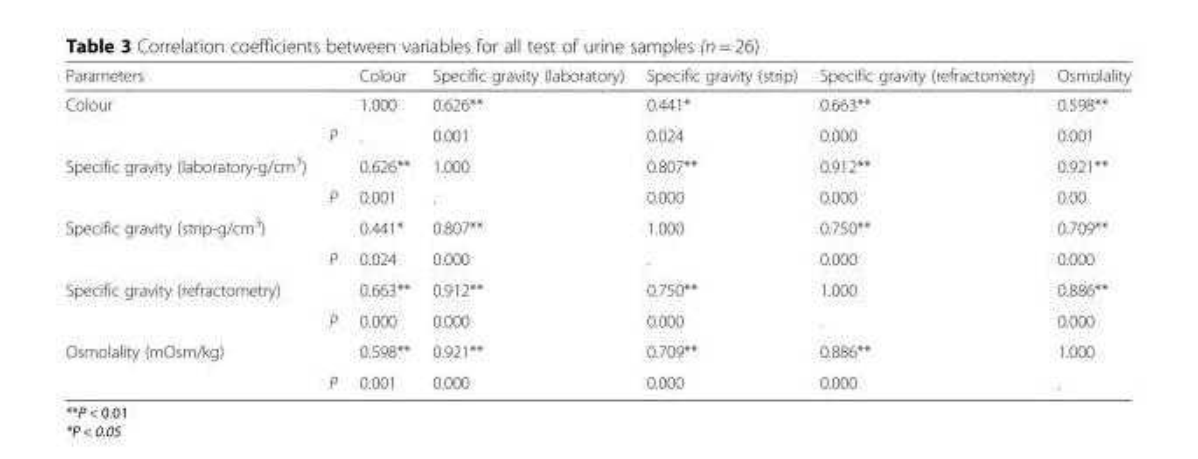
<table><thead><tr><td>Parameters</td><td></td><td>Colour</td><td>Specific gravity (laboratory)</td><td>Specific gravity (strip)</td><td>Specific gravity (refractometry)</td><td>Osmolality</td></tr></thead><tbody><tr><td rowspan="2">Colour</td><td></td><td>1.000</td><td>0.626**</td><td>0.441*</td><td>0.663**</td><td>0.598**</td></tr><tr><td>P</td><td>.</td><td>0.001</td><td>0.024</td><td>0.000</td><td>0.001</td></tr><tr><td rowspan="2">Specific gravity (laboratory-g/cm<sup>3</sup>)</td><td></td><td>0.626**</td><td>1.000</td><td>0.807**</td><td>0.912**</td><td>0.921**</td></tr><tr><td>P</td><td>0.001</td><td>.</td><td>0.000</td><td>0.000</td><td>0.00</td></tr><tr><td rowspan="2">Specific gravity (strip-g/cm<sup>3</sup>)</td><td></td><td>0.441*</td><td>0.807**</td><td>1.000</td><td>0.750**</td><td>0.709**</td></tr><tr><td>P</td><td>0.024</td><td>0.000</td><td>.</td><td>0.000</td><td>0.000</td></tr><tr><td rowspan="2">Specific gravity (refractometry)</td><td></td><td>0.663**</td><td>0.912**</td><td>0.750**</td><td>1.000</td><td>0.886**</td></tr><tr><td>P</td><td>0.000</td><td>0.000</td><td>0.000</td><td>.</td><td>0.000</td></tr><tr><td rowspan="2">Osmolality (mOsm/kg)</td><td></td><td>0.598**</td><td>0.921**</td><td>0.709**</td><td>0.886**</td><td>1.000</td></tr><tr><td>P</td><td>0.001</td><td>0.000</td><td>0.000</td><td>0.000</td><td>.</td></tr></tbody></table>